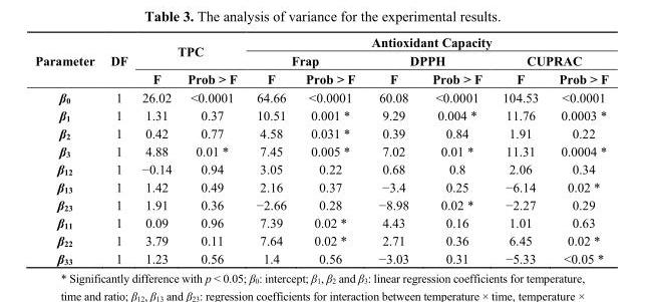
<table><thead><tr><td rowspan="3">Parameter</td><td rowspan="3">DF</td><td rowspan="2" colspan="2">TPC</td><td colspan="6">Antioxidant Capacity</td></tr><tr><td colspan="2">Frap</td><td colspan="2">DPPH</td><td colspan="2">CUPRAC</td></tr><tr><td>F</td><td>Prob &gt; F</td><td>F</td><td>Prob &gt; F</td><td>F</td><td>Prob &gt; F</td><td>F</td><td>Prob &gt; F</td></tr></thead><tbody><tr><td>β<sub>0</sub></td><td>1</td><td>26.02</td><td>&lt;0.0001</td><td>64.66</td><td>&lt;0.0001</td><td>60.08</td><td>&lt;0.0001</td><td>104.53</td><td>&lt;0.0001</td></tr><tr><td>β<sub>1</sub></td><td>1</td><td>1.31</td><td>0.37</td><td>10.51</td><td>0.001 *</td><td>9.29</td><td>0.004 *</td><td>11.76</td><td>0.0003 *</td></tr><tr><td>β<sub>2</sub></td><td>1</td><td>0.42</td><td>0.77</td><td>4.58</td><td>0.031 *</td><td>0.39</td><td>0.84</td><td>1.91</td><td>0.22</td></tr><tr><td>β<sub>3</sub></td><td>1</td><td>4.88</td><td>0.01 *</td><td>7.45</td><td>0.005 *</td><td>7.02</td><td>0.01 *</td><td>11.31</td><td>0.0004 *</td></tr><tr><td>β<sub>12</sub></td><td>1</td><td>−0.14</td><td>0.94</td><td>3.05</td><td>0.22</td><td>0.68</td><td>0.8</td><td>2.06</td><td>0.34</td></tr><tr><td>β<sub>13</sub></td><td>1</td><td>1.42</td><td>0.49</td><td>2.16</td><td>0.37</td><td>−3.4</td><td>0.25</td><td>−6.14</td><td>0.02 *</td></tr><tr><td>β<sub>23</sub></td><td>1</td><td>1.91</td><td>0.36</td><td>−2.66</td><td>0.28</td><td>−8.98</td><td>0.02 *</td><td>−2.27</td><td>0.29</td></tr><tr><td>β<sub>11</sub></td><td>1</td><td>0.09</td><td>0.96</td><td>7.39</td><td>0.02 *</td><td>4.43</td><td>0.16</td><td>1.01</td><td>0.63</td></tr><tr><td>β<sub>22</sub></td><td>1</td><td>3.79</td><td>0.11</td><td>7.64</td><td>0.02 *</td><td>2.71</td><td>0.36</td><td>6.45</td><td>0.02 *</td></tr><tr><td>β<sub>33</sub></td><td>1</td><td>1.23</td><td>0.56</td><td>1.4</td><td>0.56</td><td>−3.03</td><td>0.31</td><td>−5.33</td><td>&lt;0.05 *</td></tr></tbody></table>